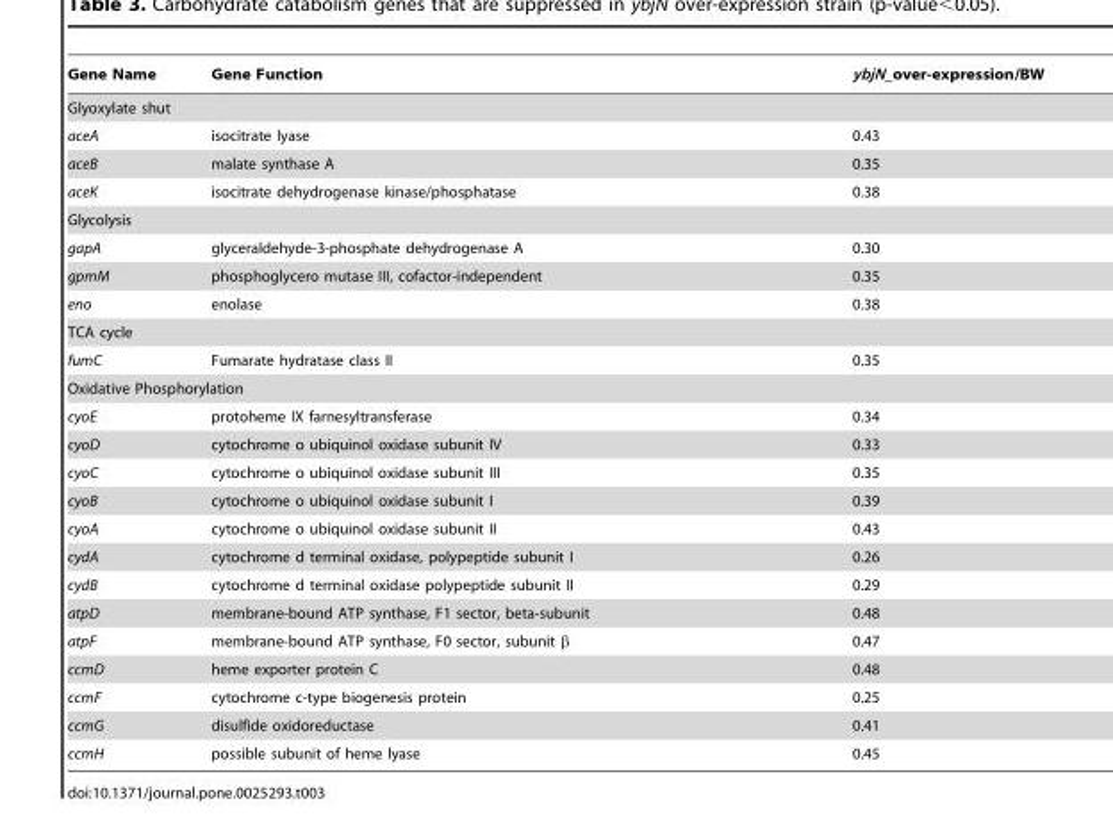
<table><thead><tr><td>Gene Name</td><td>Gene Function</td><td>ybjN_over-expression/BW</td></tr></thead><tbody><tr><td colspan="3">Glyoxylate shut</td></tr><tr><td>aceA</td><td>isocitrate lyase</td><td>0.43</td></tr><tr><td>aceB</td><td>malate synthase A</td><td>0.35</td></tr><tr><td>aceK</td><td>isocitrate dehydrogenase kinase/phosphatase</td><td>0.38</td></tr><tr><td colspan="3">Glycolysis</td></tr><tr><td>gapA</td><td>glyceraldehyde-3-phosphate dehydrogenase A</td><td>0.30</td></tr><tr><td>gpmM</td><td>phosphoglycero mutase III, cofactor-independent</td><td>0.35</td></tr><tr><td>eno</td><td>enolase</td><td>0.38</td></tr><tr><td colspan="3">TCA cycle</td></tr><tr><td>fumC</td><td>Fumarate hydratase class II</td><td>0.35</td></tr><tr><td colspan="3">Oxidative Phosphorylation</td></tr><tr><td>cyoE</td><td>protoheme IX farnesyltransferase</td><td>0.34</td></tr><tr><td>cyoD</td><td>cytochrome o ubiquinol oxidase subunit IV</td><td>0.33</td></tr><tr><td>cyoC</td><td>cytochrome o ubiquinol oxidase subunit III</td><td>0.35</td></tr><tr><td>cyoB</td><td>cytochrome o ubiquinol oxidase subunit I</td><td>0.39</td></tr><tr><td>cyoA</td><td>cytochrome o ubiquinol oxidase subunit II</td><td>0.43</td></tr><tr><td>cydA</td><td>cytochrome d terminal oxidase, polypeptide subunit I</td><td>0.26</td></tr><tr><td>cydB</td><td>cytochrome d terminal oxidase polypeptide subunit II</td><td>0.29</td></tr><tr><td>atpD</td><td>membrane-bound ATP synthase, F1 sector, beta-subunit</td><td>0.48</td></tr><tr><td>atpF</td><td>membrane-bound ATP synthase, F0 sector, subunit β</td><td>0.47</td></tr><tr><td>ccmD</td><td>heme exporter protein C</td><td>0.48</td></tr><tr><td>ccmF</td><td>cytochrome c-type biogenesis protein</td><td>0.25</td></tr><tr><td>ccmG</td><td>disulfide oxidoreductase</td><td>0.41</td></tr><tr><td>ccmH</td><td>possible subunit of heme lyase</td><td>0.45</td></tr></tbody></table>